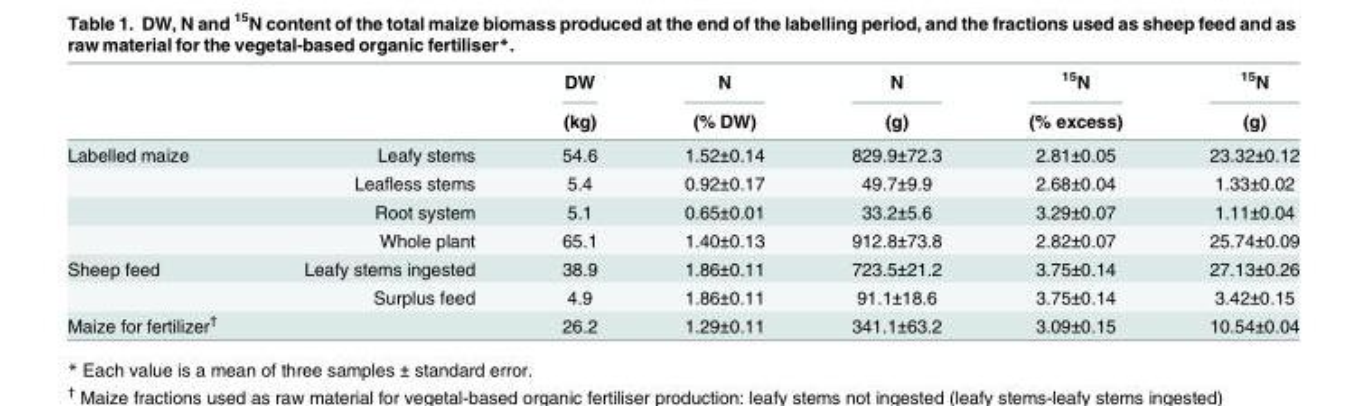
<table><thead><tr><td rowspan="2"></td><td rowspan="2"></td><td rowspan="2">DW (kg)</td><td rowspan="2">N (% DW)</td><td rowspan="2">N (g)</td><td rowspan="2"><sup>15</sup>N (% excess)</td><td rowspan="2"><sup>15</sup>N (g)</td></tr><tr></tr></thead><tbody><tr><td rowspan="4">Labelled maize</td><td>Leafy stems</td><td>54.6</td><td>1.52±0.14</td><td>829.9±72.3</td><td>2.81±0.05</td><td>23.32±0.12</td></tr><tr><td>Leafless stems</td><td>5.4</td><td>0.92±0.17</td><td>49.7±9.9</td><td>2.68±0.04</td><td>1.33±0.02</td></tr><tr><td>Root system</td><td>5.1</td><td>0.65±0.01</td><td>33.2±5.6</td><td>3.29±0.07</td><td>1.11±0.04</td></tr><tr><td>Whole plant</td><td>65.1</td><td>1.40±0.13</td><td>912.8±73.8</td><td>2.82±0.07</td><td>25.74±0.09</td></tr><tr><td rowspan="2">Sheep feed</td><td>Leafy stems ingested</td><td>38.9</td><td>1.86±0.11</td><td>723.5±21.2</td><td>3.75±0.14</td><td>27.13±0.26</td></tr><tr><td>Surplus feed</td><td>4.9</td><td>1.86±0.11</td><td>91.1±18.6</td><td>3.75±0.14</td><td>3.42±0.15</td></tr><tr><td>Maize for fertilizer<sup>†</sup></td><td></td><td>26.2</td><td>1.29±0.11</td><td>341.1±63.2</td><td>3.09±0.15</td><td>10.54±0.04</td></tr></tbody></table>